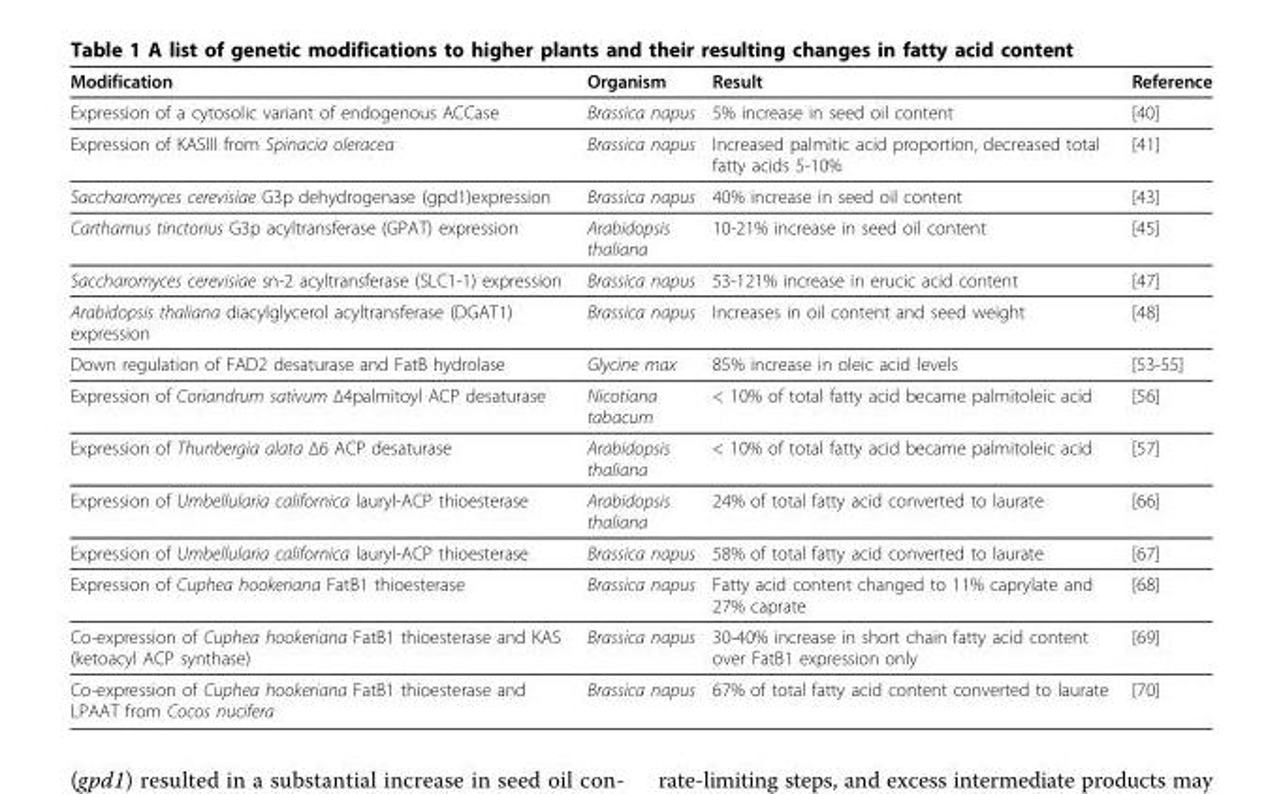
<table><thead><tr><td>Modification</td><td>Organism</td><td>Result</td><td>Reference</td></tr></thead><tbody><tr><td>Expression of a cytosolic variant of endogenous ACCase</td><td>Brassica napus</td><td>5% increase in seed oil content</td><td>[40]</td></tr><tr><td>Expression of KASIII from Spinacia oleracea</td><td>Brassica napus</td><td>Increased palmitic acid proportion, decreased total fatty acids 5-10%</td><td>[41]</td></tr><tr><td>Saccharomyces cerevisiae G3p dehydrogenase (gpd1)expression</td><td>Brassica napus</td><td>40% increase in seed oil content</td><td>[43]</td></tr><tr><td>Carthamus tinctorius G3p acyltransferase (GPAT) expression</td><td>Arabidopsis thaliana</td><td>10-21% increase in seed oil content</td><td>[45]</td></tr><tr><td>Saccharomyces cerevisiae sn-2 acyltransferase (SLC1-1) expression</td><td>Brassica napus</td><td>53-121% increase in erucic acid content</td><td>[47]</td></tr><tr><td>Arabidopsis thaliana diacylglycerol acyltransferase (DGAT1) expression</td><td>Brassica napus</td><td>Increases in oil content and seed weight</td><td>[48]</td></tr><tr><td>Down regulation of FAD2 desaturase and FatB hydrolase</td><td>Glycine max</td><td>85% increase in oleic acid levels</td><td>[53-55]</td></tr><tr><td>Expression of Coriandrum sativum Δ4palmitoyl ACP desaturase</td><td>Nicotiana tabacum</td><td>&lt; 10% of total fatty acid became palmitoleic acid</td><td>[56]</td></tr><tr><td>Expression of Thunbergia alata Δ6 ACP desaturase</td><td>Arabidopsis thaliana</td><td>&lt; 10% of total fatty acid became palmitoleic acid</td><td>[57]</td></tr><tr><td>Expression of Umbellularia californica lauryl-ACP thioesterase</td><td>Arabidopsis thaliana</td><td>24% of total fatty acid converted to laurate</td><td>[66]</td></tr><tr><td>Expression of Umbellularia californica lauryl-ACP thioesterase</td><td>Brassica napus</td><td>58% of total fatty acid converted to laurate</td><td>[67]</td></tr><tr><td>Expression of Cuphea hookeriana FatB1 thioesterase</td><td>Brassica napus</td><td>Fatty acid content changed to 11% caprylate and 27% caprate</td><td>[68]</td></tr><tr><td>Co-expression of Cuphea hookeriana FatB1 thioesterase and KAS (ketoacyl ACP synthase)</td><td>Brassica napus</td><td>30-40% increase in short chain fatty acid content over FatB1 expression only</td><td>[69]</td></tr><tr><td>Co-expression of Cuphea hookeriana FatB1 thioesterase and LPAAT from Cocos nucifera</td><td>Brassica napus</td><td>67% of total fatty acid content converted to laurate</td><td>[70]</td></tr></tbody></table>